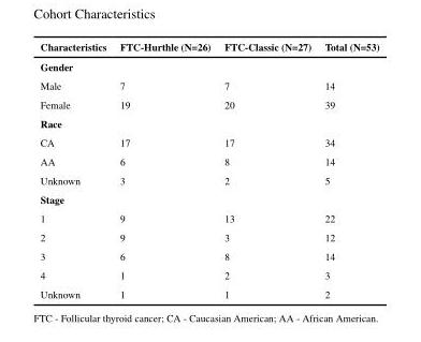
<table><thead><tr><td>Characteristics</td><td>FTC-Hurthle (N=26)</td><td>FTC-Classic (N=27)</td><td>Total (N=53)</td></tr></thead><tbody><tr><td colspan="4">Gender</td></tr><tr><td>Male</td><td>7</td><td>7</td><td>14</td></tr><tr><td>Female</td><td>19</td><td>20</td><td>39</td></tr><tr><td colspan="4">Race</td></tr><tr><td>CA</td><td>17</td><td>17</td><td>34</td></tr><tr><td>AA</td><td>6</td><td>8</td><td>14</td></tr><tr><td>Unknown</td><td>3</td><td>2</td><td>5</td></tr><tr><td colspan="4">Stage</td></tr><tr><td>1</td><td>9</td><td>13</td><td>22</td></tr><tr><td>2</td><td>9</td><td>3</td><td>12</td></tr><tr><td>3</td><td>6</td><td>8</td><td>14</td></tr><tr><td>4</td><td>1</td><td>2</td><td>3</td></tr><tr><td>Unknown</td><td>1</td><td>1</td><td>2</td></tr></tbody></table>